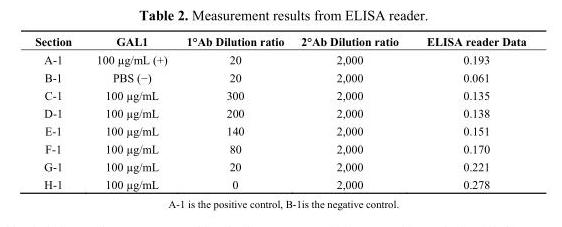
<table><thead><tr><td>Section</td><td>GAL1</td><td>1°Ab Dilution ratio</td><td>2°Ab Dilution ratio</td><td>ELISA reader Data</td></tr></thead><tbody><tr><td>A-1</td><td>100 µg/mL (+)</td><td>20</td><td>2,000</td><td>0.193</td></tr><tr><td>B-1</td><td>PBS (−)</td><td>20</td><td>2,000</td><td>0.061</td></tr><tr><td>C-1</td><td>100 µg/mL</td><td>300</td><td>2,000</td><td>0.135</td></tr><tr><td>D-1</td><td>100 µg/mL</td><td>200</td><td>2,000</td><td>0.138</td></tr><tr><td>E-1</td><td>100 µg/mL</td><td>140</td><td>2,000</td><td>0.151</td></tr><tr><td>F-1</td><td>100 µg/mL</td><td>80</td><td>2,000</td><td>0.170</td></tr><tr><td>G-1</td><td>100 µg/mL</td><td>20</td><td>2,000</td><td>0.221</td></tr><tr><td>H-1</td><td>100 µg/mL</td><td>0</td><td>2,000</td><td>0.278</td></tr></tbody></table>